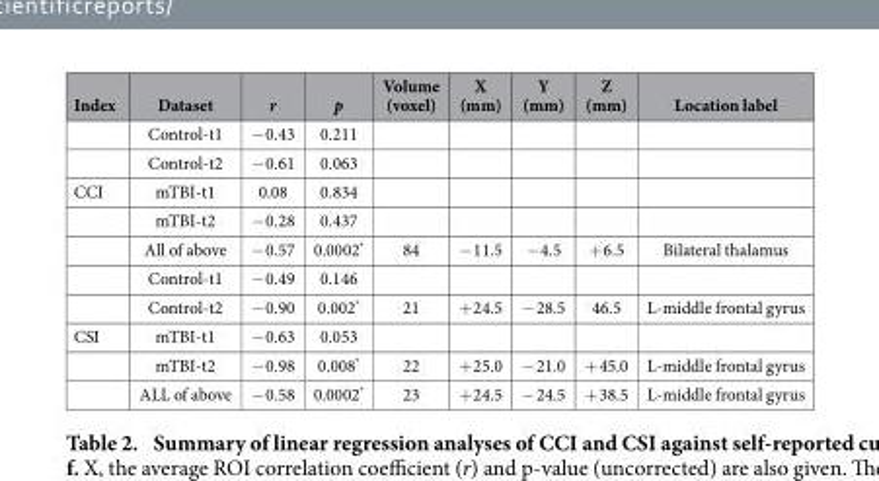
<table><thead><tr><td>Index</td><td>Dataset</td><td>r</td><td>p</td><td>Volume (voxel)</td><td>X (mm)</td><td>Y (mm)</td><td>Z (mm)</td><td>Location label</td></tr></thead><tbody><tr><td></td><td>Control-t1</td><td>− 0.43</td><td>0.211</td><td></td><td></td><td></td><td></td><td></td></tr><tr><td></td><td>Control-t2</td><td>− 0.61</td><td>0.063</td><td></td><td></td><td></td><td></td><td></td></tr><tr><td rowspan="5">CCI</td><td>mTBI-t1</td><td>0.08</td><td>0.834</td><td></td><td></td><td></td><td></td><td></td></tr><tr><td>mTBI-t2</td><td>− 0.28</td><td>0.437</td><td></td><td></td><td></td><td></td><td></td></tr><tr><td>All of above</td><td>− 0.57</td><td>0.0002*</td><td>84</td><td>− 11.5</td><td>− 4.5</td><td>+ 6.5</td><td>Bilateral thalamus</td></tr><tr><td>Control-t1</td><td>− 0.49</td><td>0.146</td><td></td><td></td><td></td><td></td><td></td></tr><tr><td>Control-t2</td><td>− 0.90</td><td>0.002*</td><td>21</td><td>+ 24.5</td><td>− 28.5</td><td>46.5</td><td>L-middle frontal gyrus</td></tr><tr><td rowspan="3">CSI</td><td>mTBI-t1</td><td>− 0.63</td><td>0.053</td><td></td><td></td><td></td><td></td><td></td></tr><tr><td>mTBI-t2</td><td>− 0.98</td><td>0.008*</td><td>22</td><td>+ 25.0</td><td>− 21.0</td><td>+ 45.0</td><td>L-middle frontal gyrus</td></tr><tr><td>ALL of above</td><td>− 0.58</td><td>0.0002*</td><td>23</td><td>+ 24.5</td><td>− 24.5</td><td>+ 38.5</td><td>L-middle frontal gyrus</td></tr></tbody></table>